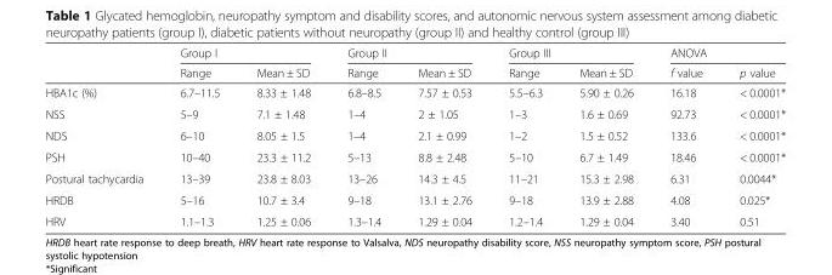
<table><thead><tr><td rowspan="2"></td><td colspan="2">Group I</td><td colspan="2">Group II</td><td colspan="2">Group III</td><td colspan="2">ANOVA</td></tr><tr><td>Range</td><td>Mean ± SD</td><td>Range</td><td>Mean ± SD</td><td>Range</td><td>Mean ± SD</td><td>f value</td><td>p value</td></tr></thead><tbody><tr><td>HBA1c (%)</td><td>6.7–11.5</td><td>8.33 ± 1.48</td><td>6.8–8.5</td><td>7.57 ± 0.53</td><td>5.5–6.3</td><td>5.90 ± 0.26</td><td>16.18</td><td>&lt; 0.0001*</td></tr><tr><td>NSS</td><td>5–9</td><td>7.1 ± 1.48</td><td>1–4</td><td>2 ± 1.05</td><td>1–3</td><td>1.6 ± 0.69</td><td>92.73</td><td>&lt; 0.0001*</td></tr><tr><td>NDS</td><td>6–10</td><td>8.05 ± 1.5</td><td>1–4</td><td>2.1 ± 0.99</td><td>1–2</td><td>1.5 ± 0.52</td><td>133.6</td><td>&lt; 0.0001*</td></tr><tr><td>PSH</td><td>10–40</td><td>23.3 ± 11.2</td><td>5–13</td><td>8.8 ± 2.48</td><td>5–10</td><td>6.7 ± 1.49</td><td>18.46</td><td>&lt; 0.0001*</td></tr><tr><td>Postural tachycardia</td><td>13–39</td><td>23.8 ± 8.03</td><td>13–26</td><td>14.3 ± 4.5</td><td>11–21</td><td>15.3 ± 2.98</td><td>6.31</td><td>0.0044*</td></tr><tr><td>HRDB</td><td>5–16</td><td>10.7 ± 3.4</td><td>9–18</td><td>13.1 ± 2.76</td><td>9–18</td><td>13.9 ± 2.88</td><td>4.08</td><td>0.025*</td></tr><tr><td>HRV</td><td>1.1–1.3</td><td>1.25 ± 0.06</td><td>1.3–1.4</td><td>1.29 ± 0.04</td><td>1.2–1.4</td><td>1.29 ± 0.04</td><td>3.40</td><td>0.51</td></tr></tbody></table>